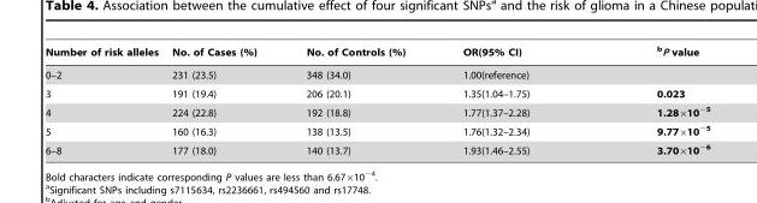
<table><thead><tr><td>Number of risk alleles</td><td>No. of Cases (%)</td><td>No. of Controls (%)</td><td>OR(95% CI)</td><td>bP value</td></tr></thead><tbody><tr><td>0–2</td><td>231 (23.5)</td><td>348 (34.0)</td><td>1.00(reference)</td><td></td></tr><tr><td>3</td><td>191 (19.4)</td><td>206 (20.1)</td><td>1.35(1.04–1.75)</td><td>0.023</td></tr><tr><td>4</td><td>224 (22.8)</td><td>192 (18.8)</td><td>1.77(1.37–2.28)</td><td>1.28×10<sup>−5</sup></td></tr><tr><td>5</td><td>160 (16.3)</td><td>138 (13.5)</td><td>1.76(1.32–2.34)</td><td>9.77×10<sup>−5</sup></td></tr><tr><td>6–8</td><td>177 (18.0)</td><td>140 (13.7)</td><td>1.93(1.46–2.55)</td><td>3.70×10<sup>−6</sup></td></tr></tbody></table>